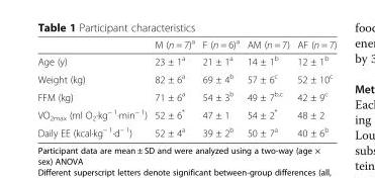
<table><thead><tr><td></td><td>M (n = 7)<sup>a</sup></td><td>F (n = 6)<sup>a</sup></td><td>AM (n = 7)</td><td>AF (n = 7)</td></tr></thead><tbody><tr><td>Age (y)</td><td>23 ± 1<sup>a</sup></td><td>21 ± 1<sup>a</sup></td><td>14 ± 1<sup>b</sup></td><td>12 ± 1<sup>b</sup></td></tr><tr><td>Weight (kg)</td><td>82 ± 6<sup>a</sup></td><td>69 ± 4<sup>b</sup></td><td>57 ± 6<sup>c</sup></td><td>52 ± 10<sup>c</sup></td></tr><tr><td>FFM (kg)</td><td>71 ± 6<sup>a</sup></td><td>54 ± 3<sup>b</sup></td><td>49 ± 7<sup>b,c</sup></td><td>42 ± 9<sup>c</sup></td></tr><tr><td>VO<sub>2max</sub> (ml O<sub>2</sub>·kg<sup>− 1</sup>·min<sup>− 1</sup>)</td><td>52 ± 6*</td><td>47 ± 1</td><td>54 ± 2*</td><td>48 ± 2</td></tr><tr><td>Daily EE (kcal·kg<sup>− 1</sup>·d<sup>− 1</sup>)</td><td>52 ± 4<sup>a</sup></td><td>39 ± 2<sup>b</sup></td><td>50 ± 7<sup>a</sup></td><td>40 ± 6<sup>b</sup></td></tr></tbody></table>